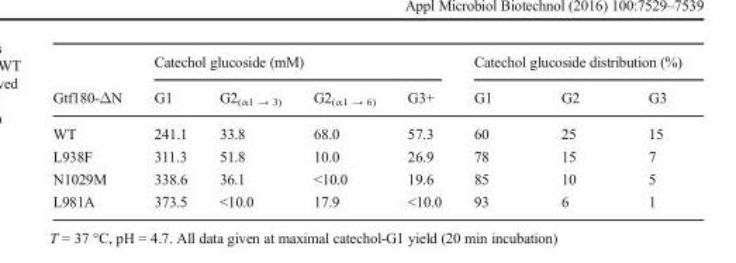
<table><thead><tr><td rowspan="2">Gtf180-ΔN</td><td colspan="4">Catechol glucoside (mM)</td><td colspan="3">Catechol glucoside distribution (%)</td></tr><tr><td>G1</td><td>G2<sub>(α1 → 3)</sub></td><td>G2<sub>(α1 → 6)</sub></td><td>G3+</td><td>G1</td><td>G2</td><td>G3</td></tr></thead><tbody><tr><td>WT</td><td>241.1</td><td>33.8</td><td>68.0</td><td>57.3</td><td>60</td><td>25</td><td>15</td></tr><tr><td>L938F</td><td>311.3</td><td>51.8</td><td>10.0</td><td>26.9</td><td>78</td><td>15</td><td>7</td></tr><tr><td>N1029M</td><td>338.6</td><td>36.1</td><td>&lt;10.0</td><td>19.6</td><td>85</td><td>10</td><td>5</td></tr><tr><td>L981A</td><td>373.5</td><td>&lt;10.0</td><td>17.9</td><td>&lt;10.0</td><td>93</td><td>6</td><td>1</td></tr></tbody></table>